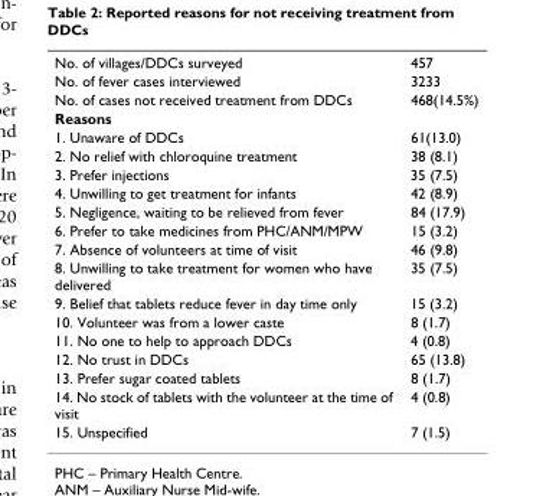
<table><tbody><tr><td>No. of villages/DDCs surveyed</td><td>457</td></tr><tr><td>No. of fever cases interviewed</td><td>3233</td></tr><tr><td>No. of cases not received treatment from DDCs</td><td>468(14.5%)</td></tr><tr><td colspan="2">Reasons</td></tr><tr><td>1. Unaware of DDCs</td><td>61(13.0)</td></tr><tr><td>2. No relief with chloroquine treatment</td><td>38 (8.1)</td></tr><tr><td>3. Prefer injections</td><td>35 (7.5)</td></tr><tr><td>4. Unwilling to get treatment for infants</td><td>42 (8.9)</td></tr><tr><td>5. Negligence, waiting to be relieved from fever</td><td>84 (17.9)</td></tr><tr><td>6. Prefer to take medicines from PHC/ANM/MPW</td><td>15 (3.2)</td></tr><tr><td>7. Absence of volunteers at time of visit</td><td>46 (9.8)</td></tr><tr><td>8. Unwilling to take treatment for women who have delivered</td><td>35 (7.5)</td></tr><tr><td>9. Belief that tablets reduce fever in day time only</td><td>15 (3.2)</td></tr><tr><td>10. Volunteer was from a lower caste</td><td>8 (1.7)</td></tr><tr><td>11. No one to help to approach DDCs</td><td>4 (0.8)</td></tr><tr><td>12. No trust in DDCs</td><td>65 (13.8)</td></tr><tr><td>13. Prefer sugar coated tablets</td><td>8 (1.7)</td></tr><tr><td>14. No stock of tablets with the volunteer at the time of visit</td><td>4 (0.8)</td></tr><tr><td>15. Unspecified</td><td>7 (1.5)</td></tr></tbody></table>